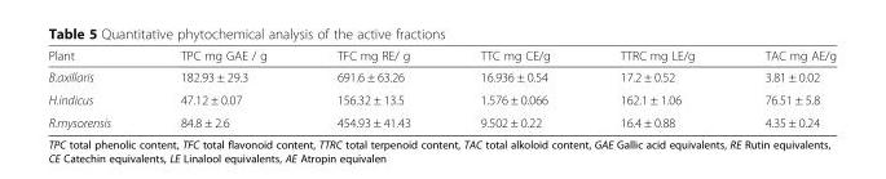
<table><thead><tr><td>Plant</td><td>TPC mg GAE / g</td><td>TFC mg RE/ g</td><td>TTC mg CE/g</td><td>TTRC mg LE/g</td><td>TAC mg AE/g</td></tr></thead><tbody><tr><td>B.axillaris</td><td>182.93 ± 29.3</td><td>691.6 ± 63.26</td><td>16.936 ± 0.54</td><td>17.2 ± 0.52</td><td>3.81 ± 0.02</td></tr><tr><td>H.indicus</td><td>47.12 ± 0.07</td><td>156.32 ± 13.5</td><td>1.576 ± 0.066</td><td>162.1 ± 1.06</td><td>76.51 ± 5.8</td></tr><tr><td>R.mysorensis</td><td>84.8 ± 2.6</td><td>454.93 ± 41.43</td><td>9.502 ± 0.22</td><td>16.4 ± 0.88</td><td>4.35 ± 0.24</td></tr></tbody></table>